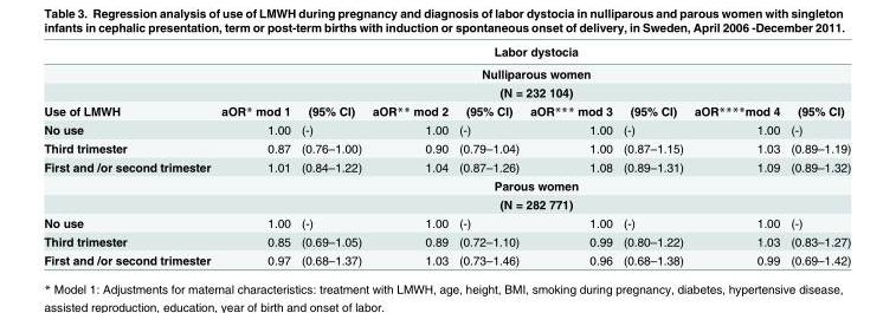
<table><thead><tr><td rowspan="4">Use of LMWH</td><td rowspan="3" colspan="8">Labor dystocia Nulliparous women (N = 232 104)</td></tr><tr></tr><tr></tr><tr><td>aOR* mod 1</td><td>(95% CI)</td><td>aOR** mod 2</td><td>(95% CI)</td><td>aOR*** mod 3</td><td>(95% CI)</td><td>aOR****mod 4</td><td>(95% CI)</td></tr></thead><tbody><tr><td>No use</td><td>1.00</td><td>(-)</td><td>1.00</td><td>(-)</td><td>1.00</td><td>(-)</td><td>1.00</td><td>(-)</td></tr><tr><td>Third trimester</td><td>0.87</td><td>(0.76–1.00)</td><td>0.90</td><td>(0.79–1.04)</td><td>1.00</td><td>(0.87–1.15)</td><td>1.03</td><td>(0.89–1.19)</td></tr><tr><td rowspan="3">First and /or second trimester</td><td>1.01</td><td>(0.84–1.22)</td><td>1.04</td><td>(0.87–1.26)</td><td>1.08</td><td>(0.89–1.31)</td><td>1.09</td><td>(0.89–1.32)</td></tr><tr><td colspan="8">Parous women</td></tr><tr><td colspan="8">(N = 282 771)</td></tr><tr><td>No use</td><td>1.00</td><td>(-)</td><td>1.00</td><td>(-)</td><td>1.00</td><td>(-)</td><td>1.00</td><td>(-)</td></tr><tr><td>Third trimester</td><td>0.85</td><td>(0.69–1.05)</td><td>0.89</td><td>(0.72–1.10)</td><td>0.99</td><td>(0.80–1.22)</td><td>1.03</td><td>(0.83–1.27)</td></tr><tr><td>First and /or second trimester</td><td>0.97</td><td>(0.68–1.37)</td><td>1.03</td><td>(0.73–1.46)</td><td>0.96</td><td>(0.68–1.38)</td><td>0.99</td><td>(0.69–1.42)</td></tr></tbody></table>